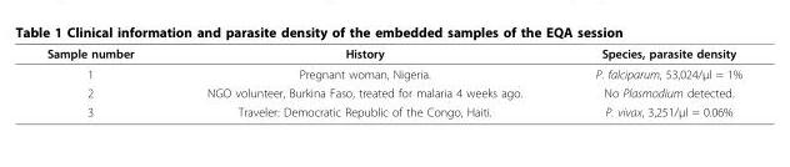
<table><thead><tr><td>Sample number</td><td>History</td><td>Species, parasite density</td></tr></thead><tbody><tr><td>1</td><td>Pregnant woman, Nigeria.</td><td>P. falciparum, 53,024/μl = 1%</td></tr><tr><td>2</td><td>NGO volunteer, Burkina Faso, treated for malaria 4 weeks ago.</td><td>No Plasmodium detected.</td></tr><tr><td>3</td><td>Traveler: Democratic Republic of the Congo, Haiti.</td><td>P. vivax, 3,251/μl = 0.06%</td></tr></tbody></table>